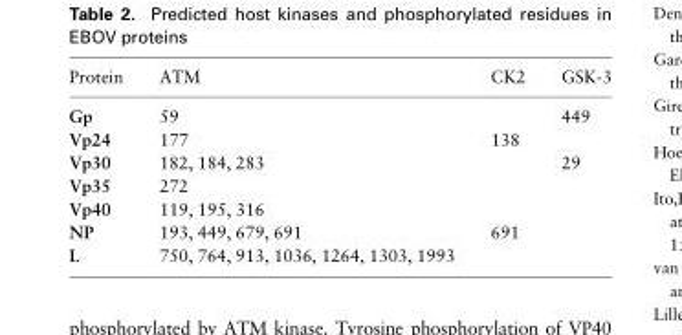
<table><thead><tr><td>Protein</td><td>ATM</td><td>CK2</td><td>GSK-3</td></tr></thead><tbody><tr><td>Gp</td><td>59</td><td></td><td>449</td></tr><tr><td>Vp24</td><td>177</td><td>138</td><td></td></tr><tr><td>Vp30</td><td>182, 184, 283</td><td></td><td>29</td></tr><tr><td>Vp35</td><td>272</td><td></td><td></td></tr><tr><td>Vp40</td><td>119, 195, 316</td><td></td><td></td></tr><tr><td>NP</td><td>193, 449, 679, 691</td><td>691</td><td></td></tr><tr><td>L</td><td>750, 764, 913, 1036, 1264, 1303, 1993</td><td></td><td></td></tr></tbody></table>